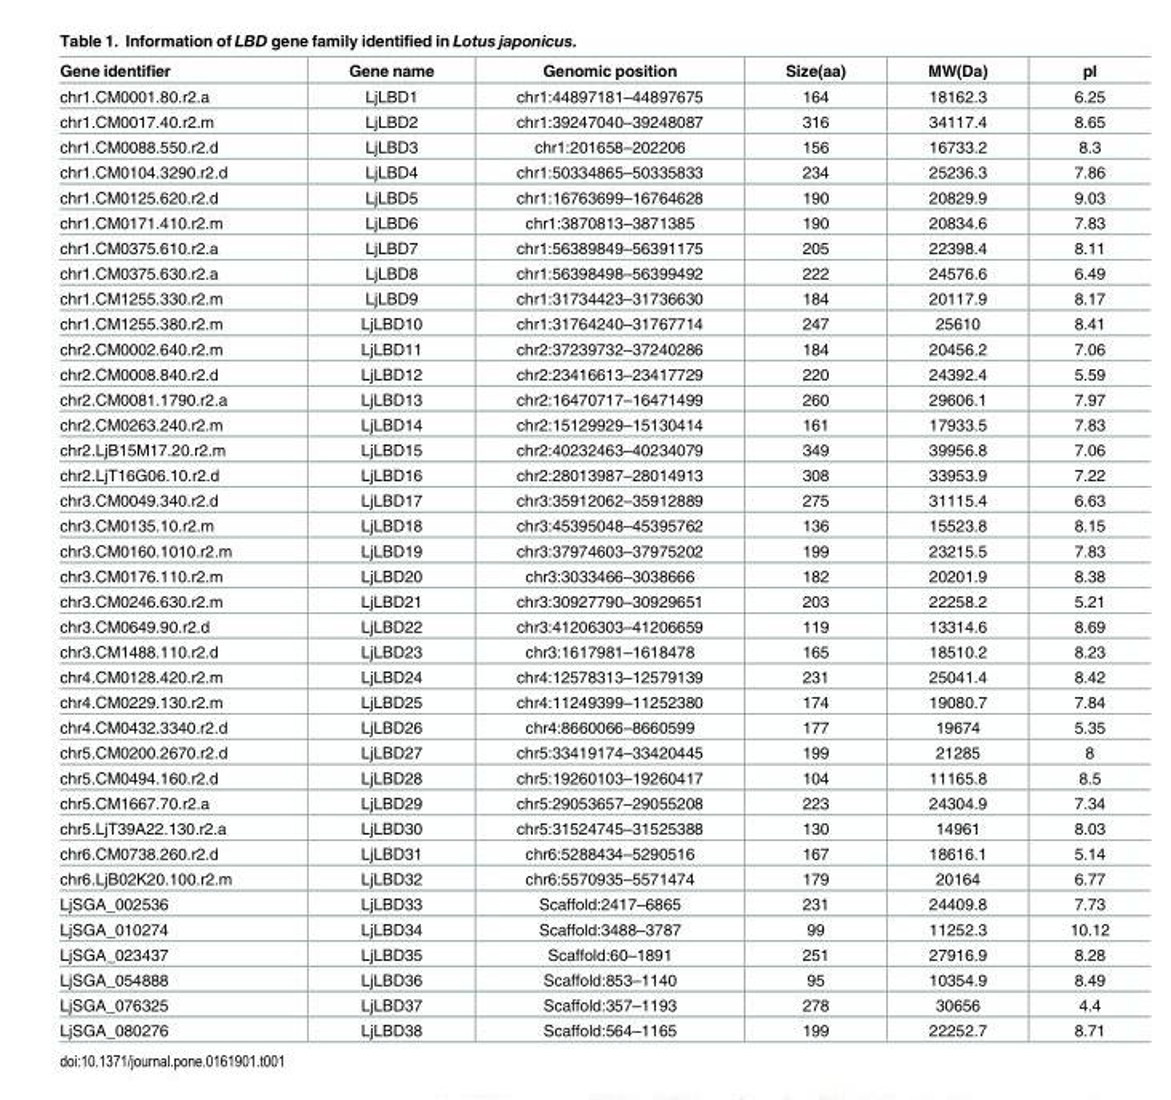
<table><thead><tr><td>Gene identifier</td><td>Gene name</td><td>Genomic position</td><td>Size(aa)</td><td>MW(Da)</td><td>pI</td></tr></thead><tbody><tr><td>chr1.CM0001.80.r2.a</td><td>LjLBD1</td><td>chr1:44897181–44897675</td><td>164</td><td>18162.3</td><td>6.25</td></tr><tr><td>chr1.CM0017.40.r2.m</td><td>LjLBD2</td><td>chr1:39247040–39248087</td><td>316</td><td>34117.4</td><td>8.65</td></tr><tr><td>chr1.CM0088.550.r2.d</td><td>LjLBD3</td><td>chr1:201658–202206</td><td>156</td><td>16733.2</td><td>8.3</td></tr><tr><td>chr1.CM0104.3290.r2.d</td><td>LjLBD4</td><td>chr1:50334865–50335833</td><td>234</td><td>25236.3</td><td>7.86</td></tr><tr><td>chr1.CM0125.620.r2.d</td><td>LjLBD5</td><td>chr1:16763699–16764628</td><td>190</td><td>20829.9</td><td>9.03</td></tr><tr><td>chr1.CM0171.410.r2.m</td><td>LjLBD6</td><td>chr1:3870813–3871385</td><td>190</td><td>20834.6</td><td>7.83</td></tr><tr><td>chr1.CM0375.610.r2.a</td><td>LjLBD7</td><td>chr1:56389849–56391175</td><td>205</td><td>22398.4</td><td>8.11</td></tr><tr><td>chr1.CM0375.630.r2.a</td><td>LjLBD8</td><td>chr1:56398498–56399492</td><td>222</td><td>24576.6</td><td>6.49</td></tr><tr><td>chr1.CM1255.330.r2.m</td><td>LjLBD9</td><td>chr1:31734423–31736630</td><td>184</td><td>20117.9</td><td>8.17</td></tr><tr><td>chr1.CM1255.380.r2.m</td><td>LjLBD10</td><td>chr1:31764240–31767714</td><td>247</td><td>25610</td><td>8.41</td></tr><tr><td>chr2.CM0002.640.r2.m</td><td>LjLBD11</td><td>chr2:37239732–37240286</td><td>184</td><td>20456.2</td><td>7.06</td></tr><tr><td>chr2.CM0008.840.r2.d</td><td>LjLBD12</td><td>chr2:23416613–23417729</td><td>220</td><td>24392.4</td><td>5.59</td></tr><tr><td>chr2.CM0081.1790.r2.a</td><td>LjLBD13</td><td>chr2:16470717–16471499</td><td>260</td><td>29606.1</td><td>7.97</td></tr><tr><td>chr2.CM0263.240.r2.m</td><td>LjLBD14</td><td>chr2:15129929–15130414</td><td>161</td><td>17933.5</td><td>7.83</td></tr><tr><td>chr2.LjB15M17.20.r2.m</td><td>LjLBD15</td><td>chr2:40232463–40234079</td><td>349</td><td>39956.8</td><td>7.06</td></tr><tr><td>chr2.LjT16G06.10.r2.d</td><td>LjLBD16</td><td>chr2:28013987–28014913</td><td>308</td><td>33953.9</td><td>7.22</td></tr><tr><td>chr3.CM0049.340.r2.d</td><td>LjLBD17</td><td>chr3:35912062–35912889</td><td>275</td><td>31115.4</td><td>6.63</td></tr><tr><td>chr3.CM0135.10.r2.m</td><td>LjLBD18</td><td>chr3:45395048–45395762</td><td>136</td><td>15523.8</td><td>8.15</td></tr><tr><td>chr3.CM0160.1010.r2.m</td><td>LjLBD19</td><td>chr3:37974603–37975202</td><td>199</td><td>23215.5</td><td>7.83</td></tr><tr><td>chr3.CM0176.110.r2.m</td><td>LjLBD20</td><td>chr3:3033466–3038666</td><td>182</td><td>20201.9</td><td>8.38</td></tr><tr><td>chr3.CM0246.630.r2.m</td><td>LjLBD21</td><td>chr3:30927790–30929651</td><td>203</td><td>22258.2</td><td>5.21</td></tr><tr><td>chr3.CM0649.90.r2.d</td><td>LjLBD22</td><td>chr3:41206303–41206659</td><td>119</td><td>13314.6</td><td>8.69</td></tr><tr><td>chr3.CM1488.110.r2.d</td><td>LjLBD23</td><td>chr3:1617981–1618478</td><td>165</td><td>18510.2</td><td>8.23</td></tr><tr><td>chr4.CM0128.420.r2.m</td><td>LjLBD24</td><td>chr4:12578313–12579139</td><td>231</td><td>25041.4</td><td>8.42</td></tr><tr><td>chr4.CM0229.130.r2.m</td><td>LjLBD25</td><td>chr4:11249399–11252380</td><td>174</td><td>19080.7</td><td>7.84</td></tr><tr><td>chr4.CM0432.3340.r2.d</td><td>LjLBD26</td><td>chr4:8660066–8660599</td><td>177</td><td>19674</td><td>5.35</td></tr><tr><td>chr5.CM0200.2670.r2.d</td><td>LjLBD27</td><td>chr5:33419174–33420445</td><td>199</td><td>21285</td><td>8</td></tr><tr><td>chr5.CM0494.160.r2.d</td><td>LjLBD28</td><td>chr5:19260103–19260417</td><td>104</td><td>11165.8</td><td>8.5</td></tr><tr><td>chr5.CM1667.70.r2.a</td><td>LjLBD29</td><td>chr5:29053657–29055208</td><td>223</td><td>24304.9</td><td>7.34</td></tr><tr><td>chr5.LjT39A22.130.r2.a</td><td>LjLBD30</td><td>chr5:31524745–31525388</td><td>130</td><td>14961</td><td>8.03</td></tr><tr><td>chr6.CM0738.260.r2.d</td><td>LjLBD31</td><td>chr6:5288434–5290516</td><td>167</td><td>18616.1</td><td>5.14</td></tr><tr><td>chr6.LjB02K20.100.r2.m</td><td>LjLBD32</td><td>chr6:5570935–5571474</td><td>179</td><td>20164</td><td>6.77</td></tr><tr><td>LjSGA_002536</td><td>LjLBD33</td><td>Scaffold:2417–6865</td><td>231</td><td>24409.8</td><td>7.73</td></tr><tr><td>LjSGA_010274</td><td>LjLBD34</td><td>Scaffold:3488–3787</td><td>99</td><td>11252.3</td><td>10.12</td></tr><tr><td>LjSGA_023437</td><td>LjLBD35</td><td>Scaffold:60–1891</td><td>251</td><td>27916.9</td><td>8.28</td></tr><tr><td>LjSGA_054888</td><td>LjLBD36</td><td>Scaffold:853–1140</td><td>95</td><td>10354.9</td><td>8.49</td></tr><tr><td>LjSGA_076325</td><td>LjLBD37</td><td>Scaffold:357–1193</td><td>278</td><td>30656</td><td>4.4</td></tr><tr><td>LjSGA_080276</td><td>LjLBD38</td><td>Scaffold:564–1165</td><td>199</td><td>22252.7</td><td>8.71</td></tr></tbody></table>